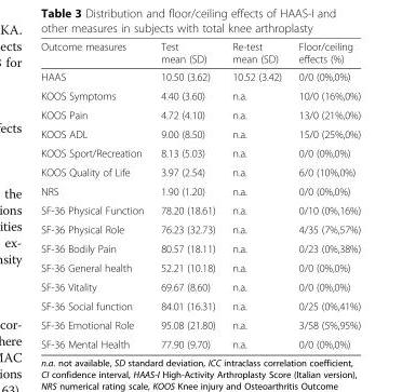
<table><thead><tr><td>Outcome measures</td><td>Test mean (SD)</td><td>Re-test mean (SD)</td><td>Floor/ceiling effects (%)</td></tr></thead><tbody><tr><td>HAAS</td><td>10.50 (3.62)</td><td>10.52 (3.42)</td><td>0/0 (0%,0%)</td></tr><tr><td>KOOS Symptoms</td><td>4.40 (3.60)</td><td>n.a.</td><td>10/0 (16%,0%)</td></tr><tr><td>KOOS Pain</td><td>4.72 (4.10)</td><td>n.a.</td><td>13/0 (21%,0%)</td></tr><tr><td>KOOS ADL</td><td>9.00 (8.50)</td><td>n.a.</td><td>15/0 (25%,0%)</td></tr><tr><td>KOOS Sport/Recreation</td><td>8.13 (5.03)</td><td>n.a.</td><td>0/0 (0%,0%)</td></tr><tr><td>KOOS Quality of Life</td><td>3.97 (2.54)</td><td>n.a.</td><td>6/0 (10%,0%)</td></tr><tr><td>NRS</td><td>1.90 (1.20)</td><td>n.a.</td><td>0/0 (0%,0%)</td></tr><tr><td>SF-36 Physical Function</td><td>78.20 (18.61)</td><td>n.a.</td><td>0/10 (0%,16%)</td></tr><tr><td>SF-36 Physical Role</td><td>76.23 (32.73)</td><td>n.a.</td><td>4/35 (7%,57%)</td></tr><tr><td>SF-36 Bodily Pain</td><td>80.57 (18.11)</td><td>n.a.</td><td>0/23 (0%,38%)</td></tr><tr><td>SF-36 General health</td><td>52.21 (10.18)</td><td>n.a.</td><td>0/0 (0%,0%)</td></tr><tr><td>SF-36 Vitality</td><td>69.67 (8.60)</td><td>n.a.</td><td>0/0 (0%,0%)</td></tr><tr><td>SF-36 Social function</td><td>84.01 (16.31)</td><td>n.a.</td><td>0/25 (0%,41%)</td></tr><tr><td>SF-36 Emotional Role</td><td>95.08 (21.80)</td><td>n.a.</td><td>3/58 (5%,95%)</td></tr><tr><td>SF-36 Mental Health</td><td>77.90 (9.70)</td><td>n.a.</td><td>0/0 (0%,0%)</td></tr></tbody></table>